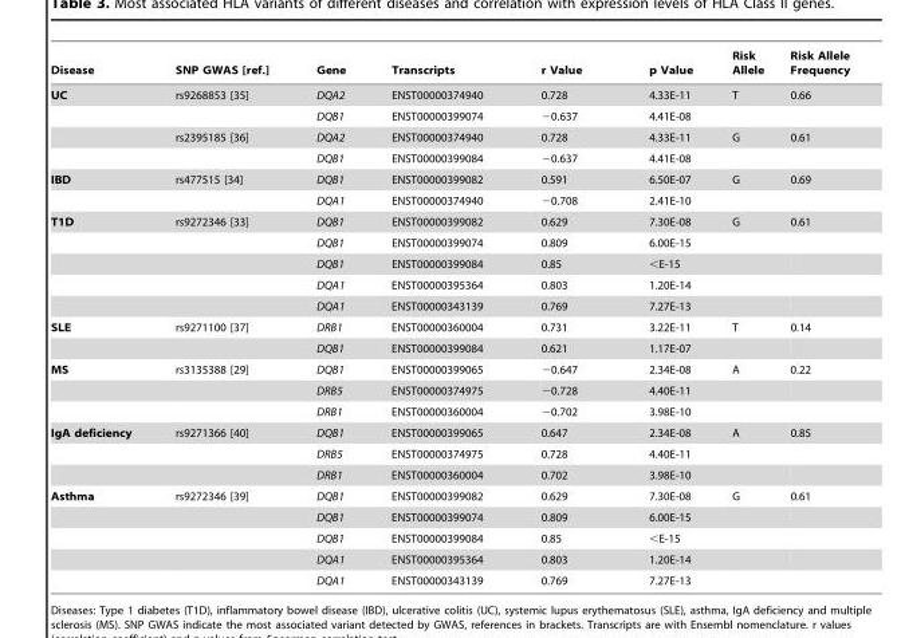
<table><thead><tr><td>Disease</td><td>SNP GWAS [ref.]</td><td>Gene</td><td>Transcripts</td><td>r Value</td><td>p Value</td><td>Risk Allele</td><td>Risk Allele Frequency</td></tr></thead><tbody><tr><td rowspan="4">UC</td><td>rs9268853 [35]</td><td>DQA2</td><td>ENST00000374940</td><td>0.728</td><td>4.33E-11</td><td>T</td><td>0.66</td></tr><tr><td></td><td>DQB1</td><td>ENST00000399074</td><td>−0.637</td><td>4.41E-08</td><td></td><td></td></tr><tr><td>rs2395185 [36]</td><td>DQA2</td><td>ENST00000374940</td><td>0.728</td><td>4.33E-11</td><td>G</td><td>0.61</td></tr><tr><td></td><td>DQB1</td><td>ENST00000399084</td><td>−0.637</td><td>4.41E-08</td><td></td><td></td></tr><tr><td rowspan="2">IBD</td><td>rs477515 [34]</td><td>DQB1</td><td>ENST00000399082</td><td>0.591</td><td>6.50E-07</td><td>G</td><td>0.69</td></tr><tr><td></td><td>DQA1</td><td>ENST00000374940</td><td>−0.708</td><td>2.41E-10</td><td></td><td></td></tr><tr><td rowspan="5">T1D</td><td>rs9272346 [33]</td><td>DQB1</td><td>ENST00000399082</td><td>0.629</td><td>7.30E-08</td><td>G</td><td>0.61</td></tr><tr><td></td><td>DQB1</td><td>ENST00000399074</td><td>0.809</td><td>6.00E-15</td><td></td><td></td></tr><tr><td></td><td>DQB1</td><td>ENST00000399084</td><td>0.85</td><td>&lt;E-15</td><td></td><td></td></tr><tr><td></td><td>DQA1</td><td>ENST00000395364</td><td>0.803</td><td>1.20E-14</td><td></td><td></td></tr><tr><td></td><td>DQA1</td><td>ENST00000343139</td><td>0.769</td><td>7.27E-13</td><td></td><td></td></tr><tr><td rowspan="2">SLE</td><td>rs9271100 [37]</td><td>DRB1</td><td>ENST00000360004</td><td>0.731</td><td>3.22E-11</td><td>T</td><td>0.14</td></tr><tr><td></td><td>DQB1</td><td>ENST00000399084</td><td>0.621</td><td>1.17E-07</td><td></td><td></td></tr><tr><td rowspan="3">MS</td><td>rs3135388 [29]</td><td>DQB1</td><td>ENST00000399065</td><td>−0.647</td><td>2.34E-08</td><td>A</td><td>0.22</td></tr><tr><td></td><td>DRB5</td><td>ENST00000374975</td><td>−0.728</td><td>4.40E-11</td><td></td><td></td></tr><tr><td></td><td>DRB1</td><td>ENST00000360004</td><td>−0.702</td><td>3.98E-10</td><td></td><td></td></tr><tr><td rowspan="3">IgA deficiency</td><td>rs9271366 [40]</td><td>DQB1</td><td>ENST00000399065</td><td>0.647</td><td>2.34E-08</td><td>A</td><td>0.85</td></tr><tr><td></td><td>DRB5</td><td>ENST00000374975</td><td>0.728</td><td>4.40E-11</td><td></td><td></td></tr><tr><td></td><td>DRB1</td><td>ENST00000360004</td><td>0.702</td><td>3.98E-10</td><td></td><td></td></tr><tr><td rowspan="5">Asthma</td><td>rs9272346 [39]</td><td>DQB1</td><td>ENST00000399082</td><td>0.629</td><td>7.30E-08</td><td>G</td><td>0.61</td></tr><tr><td></td><td>DQB1</td><td>ENST00000399074</td><td>0.809</td><td>6.00E-15</td><td></td><td></td></tr><tr><td></td><td>DQB1</td><td>ENST00000399084</td><td>0.85</td><td>&lt;E-15</td><td></td><td></td></tr><tr><td></td><td>DQA1</td><td>ENST00000395364</td><td>0.803</td><td>1.20E-14</td><td></td><td></td></tr><tr><td></td><td>DQA1</td><td>ENST00000343139</td><td>0.769</td><td>7.27E-13</td><td></td><td></td></tr></tbody></table>